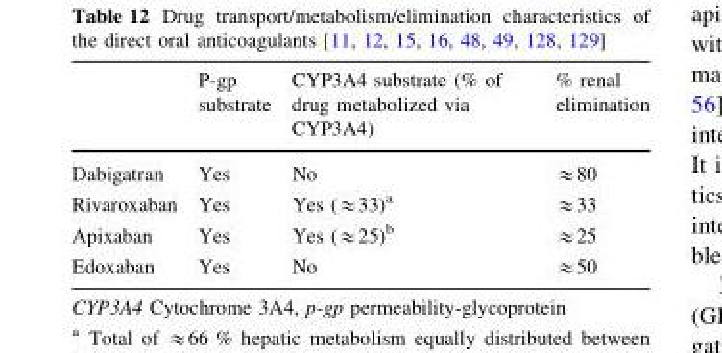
<table><thead><tr><td></td><td>P-gp substrate</td><td>CYP3A4 substrate (% of drug metabolized via CYP3A4)</td><td>% renal elimination</td></tr></thead><tbody><tr><td>Dabigatran</td><td>Yes</td><td>No</td><td>≈80</td></tr><tr><td>Rivaroxaban</td><td>Yes</td><td>Yes (≈33)<sup>a</sup></td><td>≈33</td></tr><tr><td>Apixaban</td><td>Yes</td><td>Yes (≈25)<sup>b</sup></td><td>≈25</td></tr><tr><td>Edoxaban</td><td>Yes</td><td>No</td><td>≈50</td></tr></tbody></table>